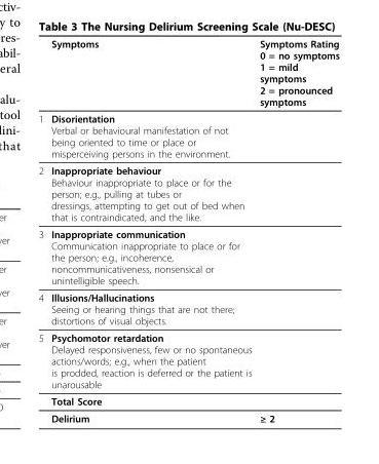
<table><thead><tr><td></td><td>Symptoms</td><td>Symptoms Rating 0 = no symptoms 1 = mild symptoms 2 = pronounced symptoms</td></tr></thead><tbody><tr><td>1</td><td>Disorientation Verbal or behavioural manifestation of not being oriented to time or place or misperceiving persons in the environment.</td><td></td></tr><tr><td>2</td><td>Inappropriate behaviour Behaviour inappropriate to place or for the person; e.g., pulling at tubes or dressings, attempting to get out of bed when that is contraindicated, and the like.</td><td></td></tr><tr><td>3</td><td>Inappropriate communication Communication inappropriate to place or for the person; e.g., incoherence, noncommunicativeness, nonsensical or unintelligible speech.</td><td></td></tr><tr><td>4</td><td>Illusions/Hallucinations Seeing or hearing things that are not there; distortions of visual objects.</td><td></td></tr><tr><td rowspan="3">5</td><td>Psychomotor retardation Delayed responsiveness, few or no spontaneous actions/words; e.g., when the patient is prodded, reaction is deferred or the patient is unarousable</td><td></td></tr><tr><td>Total Score</td><td></td></tr><tr><td>Delirium</td><td>≥ 2</td></tr></tbody></table>